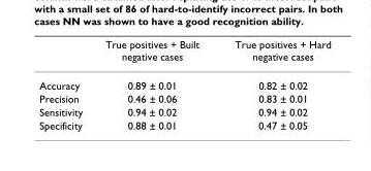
<table><thead><tr><td></td><td>True positives + Built negative cases</td><td>True positives + Hard negative cases</td></tr></thead><tbody><tr><td>Accuracy</td><td>0.89 ± 0.01</td><td>0.82 ± 0.02</td></tr><tr><td>Precision</td><td>0.46 ± 0.06</td><td>0.83 ± 0.01</td></tr><tr><td>Sensitivity</td><td>0.94 ± 0.02</td><td>0.94 ± 0.02</td></tr><tr><td>Specificity</td><td>0.88 ± 0.01</td><td>0.47 ± 0.05</td></tr></tbody></table>